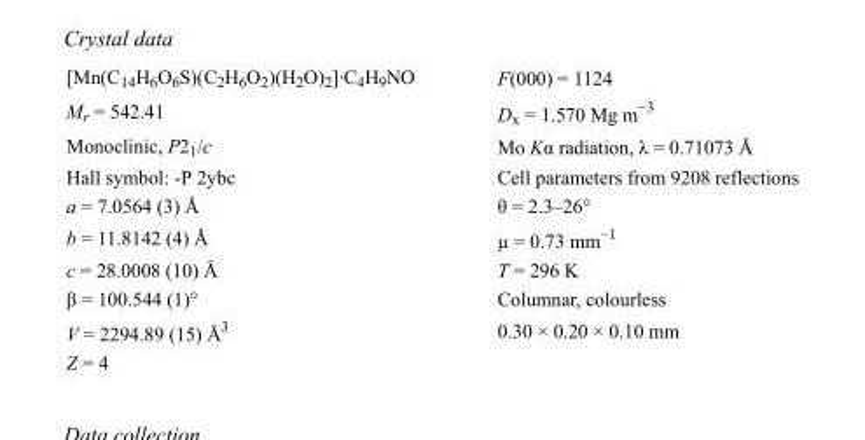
<table><tbody><tr><td>[Mn(C<sub>14</sub>H<sub>6</sub>O<sub>6</sub>S)(C<sub>2</sub>H<sub>6</sub>O<sub>2</sub>)(H<sub>2</sub>O)<sub>2</sub>]·C<sub>4</sub>H<sub>9</sub>NO</td><td>F(000) = 1124</td></tr><tr><td>M<sub>r</sub> = 542.41</td><td>D<sub>x</sub> = 1.570 Mg m<sup>−3</sup></td></tr><tr><td>Monoclinic, P2<sub>1</sub>/c</td><td>Mo Kα radiation, λ = 0.71073 Å</td></tr><tr><td>Hall symbol: -P 2ybc</td><td>Cell parameters from 9208 reflections</td></tr><tr><td>a = 7.0564 (3) Å</td><td>θ = 2.3–26°</td></tr><tr><td>b = 11.8142 (4) Å</td><td>µ = 0.73 mm<sup>−1</sup></td></tr><tr><td>c = 28.0008 (10) Å</td><td>T = 296 K</td></tr><tr><td>β = 100.544 (1)°</td><td>Columnar, colourless</td></tr><tr><td>V = 2294.89 (15) Å<sup>3</sup></td><td>0.30 × 0.20 × 0.10 mm</td></tr><tr><td>Z = 4</td><td></td></tr></tbody></table>